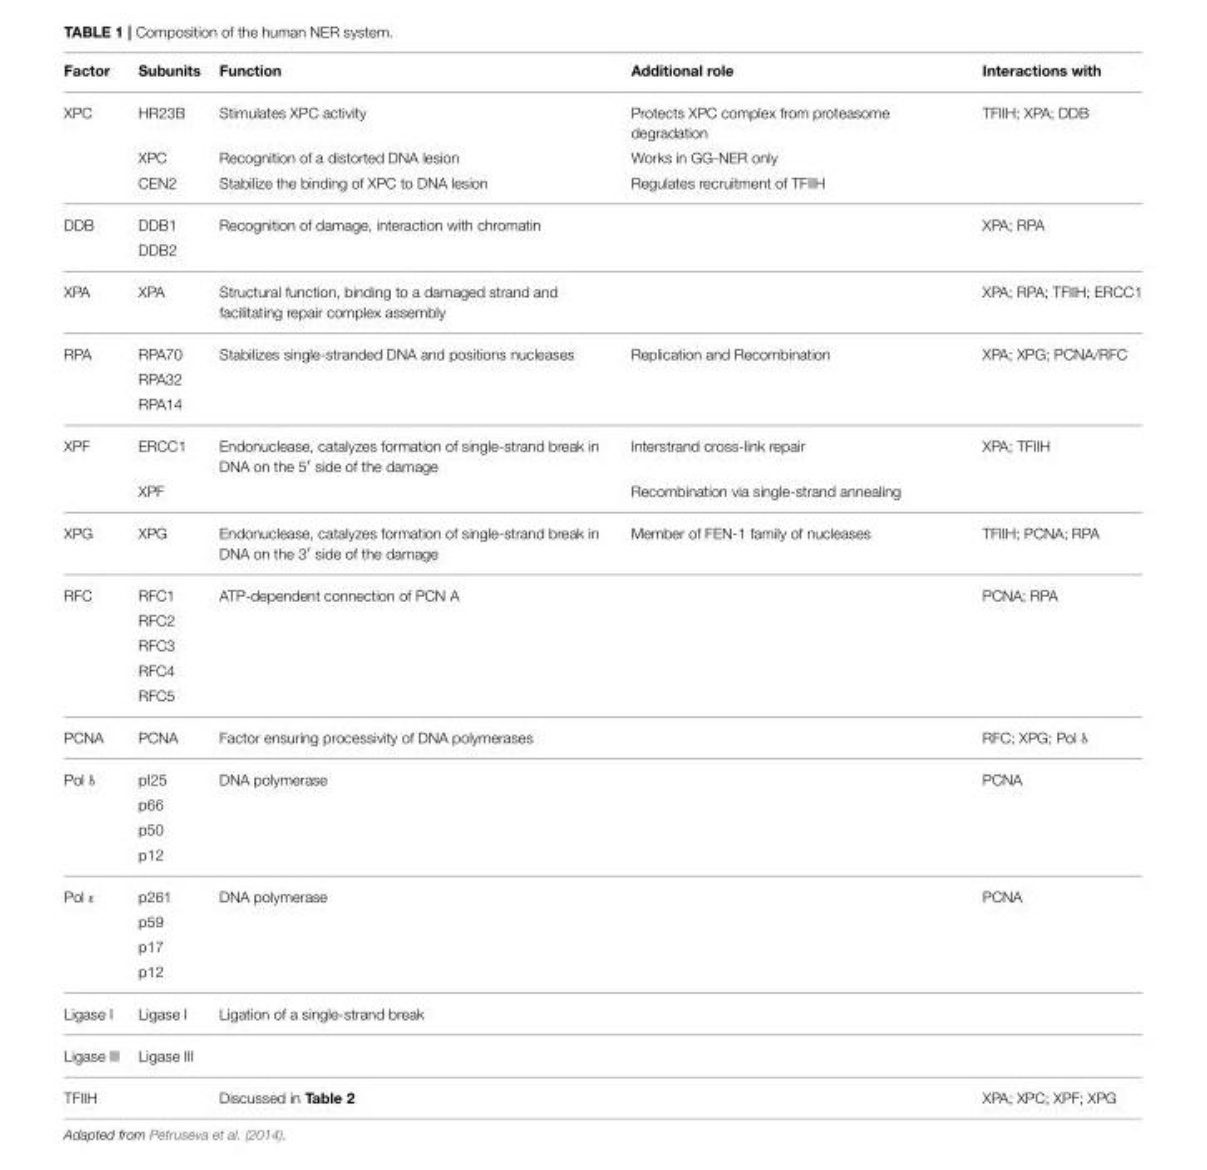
<table><thead><tr><td>Factor</td><td>Subunits</td><td>Function</td><td>Additional role</td><td>Interactions with</td></tr></thead><tbody><tr><td rowspan="3">XPC</td><td>HR23B</td><td>Stimulates XPC activity</td><td>Protects XPC complex from proteasome degradation</td><td>TFIIH; XPA; DDB</td></tr><tr><td>XPC</td><td>Recognition of a distorted DNA lesion</td><td>Works in GG-NER only</td><td></td></tr><tr><td>CEN2</td><td>Stabilize the binding of XPC to DNA lesion</td><td>Regulates recruitment of TFIIH</td><td></td></tr><tr><td rowspan="2">DDB</td><td>DDB1</td><td>Recognition of damage, interaction with chromatin</td><td></td><td>XPA; RPA</td></tr><tr><td>DDB2</td><td></td><td></td><td></td></tr><tr><td>XPA</td><td>XPA</td><td>Structural function, binding to a damaged strand and facilitating repair complex assembly</td><td></td><td>XPA; RPA; TFIIH; ERCC1</td></tr><tr><td rowspan="3">RPA</td><td>RPA70</td><td>Stabilizes single-stranded DNA and positions nucleases</td><td>Replication and Recombination</td><td>XPA; XPG; PCNA/RFC</td></tr><tr><td>RPA32</td><td></td><td></td><td></td></tr><tr><td>RPA14</td><td></td><td></td><td></td></tr><tr><td rowspan="2">XPF</td><td>ERCC1</td><td>Endonuclease, catalyzes formation of single-strand break in DNA on the 5′ side of the damage</td><td>Interstrand cross-link repair</td><td>XPA; TFIIH</td></tr><tr><td>XPF</td><td></td><td>Recombination via single-strand annealing</td><td></td></tr><tr><td>XPG</td><td>XPG</td><td>Endonuclease, catalyzes formation of single-strand break in DNA on the 3′ side of the damage</td><td>Member of FEN-1 family of nucleases</td><td>TFIIH; PCNA; RPA</td></tr><tr><td rowspan="5">RFC</td><td>RFC1</td><td>ATP-dependent connection of PCN A</td><td></td><td>PCNA; RPA</td></tr><tr><td>RFC2</td><td></td><td></td><td></td></tr><tr><td>RFC3</td><td></td><td></td><td></td></tr><tr><td>RFC4</td><td></td><td></td><td></td></tr><tr><td>RFC5</td><td></td><td></td><td></td></tr><tr><td>PCNA</td><td>PCNA</td><td>Factor ensuring processivity of DNA polymerases</td><td></td><td>RFC; XPG; Pol δ</td></tr><tr><td rowspan="4">Pol δ</td><td>pI25</td><td>DNA polymerase</td><td></td><td>PCNA</td></tr><tr><td>p66</td><td></td><td></td><td></td></tr><tr><td>p50</td><td></td><td></td><td></td></tr><tr><td>p12</td><td></td><td></td><td></td></tr><tr><td rowspan="4">Pol ε</td><td>p261</td><td>DNA polymerase</td><td></td><td>PCNA</td></tr><tr><td>p59</td><td></td><td></td><td></td></tr><tr><td>p17</td><td></td><td></td><td></td></tr><tr><td>p12</td><td></td><td></td><td></td></tr><tr><td>Ligase I</td><td>Ligase I</td><td>Ligation of a single-strand break</td><td></td><td></td></tr><tr><td>Ligase III</td><td>Ligase III</td><td></td><td></td><td></td></tr><tr><td>TFIIH</td><td></td><td>Discussed in Table 2</td><td></td><td>XPA; XPC; XPF; XPG</td></tr></tbody></table>